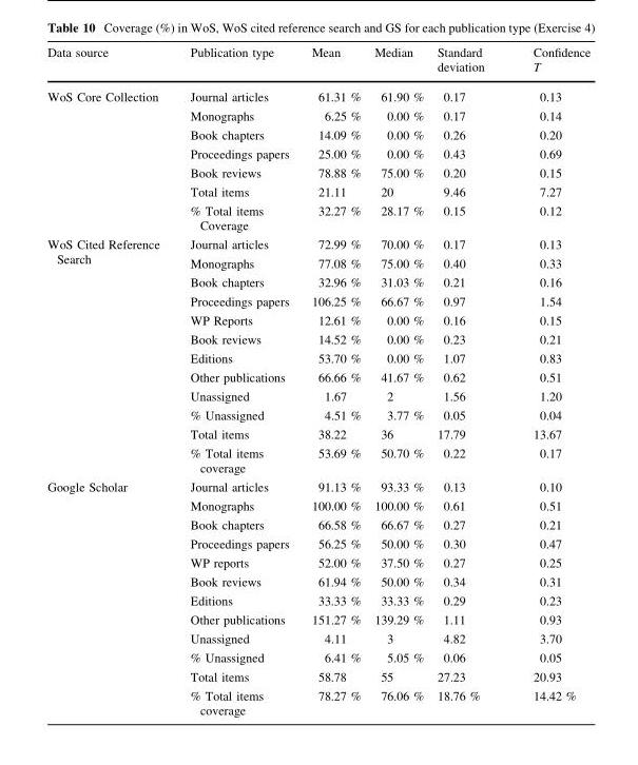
<table><thead><tr><td>Data source</td><td>Publication type</td><td>Mean</td><td>Median</td><td>Standard deviation</td><td>Confidence T</td></tr></thead><tbody><tr><td rowspan="7">WoS Core Collection</td><td>Journal articles</td><td>61.31 %</td><td>61.90 %</td><td>0.17</td><td>0.13</td></tr><tr><td>Monographs</td><td>6.25 %</td><td>0.00 %</td><td>0.17</td><td>0.14</td></tr><tr><td>Book chapters</td><td>14.09 %</td><td>0.00 %</td><td>0.26</td><td>0.20</td></tr><tr><td>Proceedings papers</td><td>25.00 %</td><td>0.00 %</td><td>0.43</td><td>0.69</td></tr><tr><td>Book reviews</td><td>78.88 %</td><td>75.00 %</td><td>0.20</td><td>0.15</td></tr><tr><td>Total items</td><td>21.11</td><td>20</td><td>9.46</td><td>7.27</td></tr><tr><td>% Total items Coverage</td><td>32.27 %</td><td>28.17 %</td><td>0.15</td><td>0.12</td></tr><tr><td rowspan="12">WoS Cited Reference Search</td><td>Journal articles</td><td>72.99 %</td><td>70.00 %</td><td>0.17</td><td>0.13</td></tr><tr><td>Monographs</td><td>77.08 %</td><td>75.00 %</td><td>0.40</td><td>0.33</td></tr><tr><td>Book chapters</td><td>32.96 %</td><td>31.03 %</td><td>0.21</td><td>0.16</td></tr><tr><td>Proceedings papers</td><td>106.25 %</td><td>66.67 %</td><td>0.97</td><td>1.54</td></tr><tr><td>WP Reports</td><td>12.61 %</td><td>0.00 %</td><td>0.16</td><td>0.15</td></tr><tr><td>Book reviews</td><td>14.52 %</td><td>0.00 %</td><td>0.23</td><td>0.21</td></tr><tr><td>Editions</td><td>53.70 %</td><td>0.00 %</td><td>1.07</td><td>0.83</td></tr><tr><td>Other publications</td><td>66.66 %</td><td>41.67 %</td><td>0.62</td><td>0.51</td></tr><tr><td>Unassigned</td><td>1.67</td><td>2</td><td>1.56</td><td>1.20</td></tr><tr><td>% Unassigned</td><td>4.51 %</td><td>3.77 %</td><td>0.05</td><td>0.04</td></tr><tr><td>Total items</td><td>38.22</td><td>36</td><td>17.79</td><td>13.67</td></tr><tr><td>% Total items coverage</td><td>53.69 %</td><td>50.70 %</td><td>0.22</td><td>0.17</td></tr><tr><td rowspan="12">Google Scholar</td><td>Journal articles</td><td>91.13 %</td><td>93.33 %</td><td>0.13</td><td>0.10</td></tr><tr><td>Monographs</td><td>100.00 %</td><td>100.00 %</td><td>0.61</td><td>0.51</td></tr><tr><td>Book chapters</td><td>66.58 %</td><td>66.67 %</td><td>0.27</td><td>0.21</td></tr><tr><td>Proceedings papers</td><td>56.25 %</td><td>50.00 %</td><td>0.30</td><td>0.47</td></tr><tr><td>WP reports</td><td>52.00 %</td><td>37.50 %</td><td>0.27</td><td>0.25</td></tr><tr><td>Book reviews</td><td>61.94 %</td><td>50.00 %</td><td>0.34</td><td>0.31</td></tr><tr><td>Editions</td><td>33.33 %</td><td>33.33 %</td><td>0.29</td><td>0.23</td></tr><tr><td>Other publications</td><td>151.27 %</td><td>139.29 %</td><td>1.11</td><td>0.93</td></tr><tr><td>Unassigned</td><td>4.11</td><td>3</td><td>4.82</td><td>3.70</td></tr><tr><td>% Unassigned</td><td>6.41 %</td><td>5.05 %</td><td>0.06</td><td>0.05</td></tr><tr><td>Total items</td><td>58.78</td><td>55</td><td>27.23</td><td>20.93</td></tr><tr><td>% Total items coverage</td><td>78.27 %</td><td>76.06 %</td><td>18.76 %</td><td>14.42 %</td></tr></tbody></table>